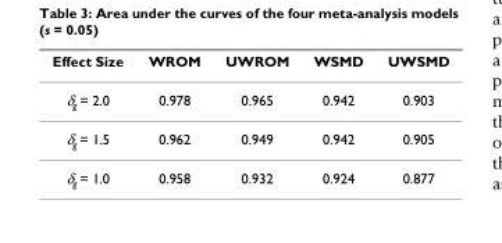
<table><thead><tr><td>Effect Size</td><td>WROM</td><td>UWROM</td><td>WSMD</td><td>UWSMD</td></tr></thead><tbody><tr><td>δ<sub>g</sub> = 2.0</td><td>0.978</td><td>0.965</td><td>0.942</td><td>0.903</td></tr><tr><td>δ<sub>g</sub> = 1.5</td><td>0.962</td><td>0.949</td><td>0.942</td><td>0.905</td></tr><tr><td>δ<sub>g</sub> = 1.0</td><td>0.958</td><td>0.932</td><td>0.924</td><td>0.877</td></tr></tbody></table>